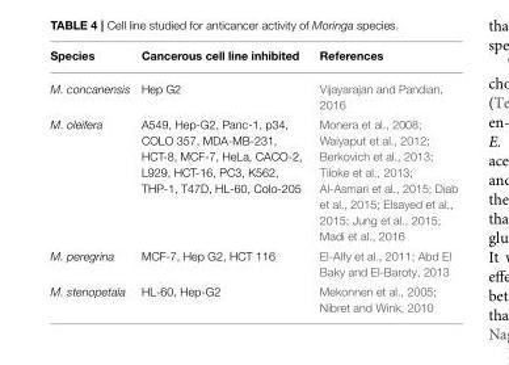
<table><thead><tr><td>Species</td><td>Cancerous cell line inhibited</td><td>References</td></tr></thead><tbody><tr><td>M. concanensis</td><td>Hep G2</td><td>Vijayarajan and Pandian, 2016</td></tr><tr><td>M. oleifera</td><td>A549, Hep-G2, Panc-1, p34, COLO 357, MDA-MB-231, HCT-8, MCF-7, HeLa, CACO-2, L929, HCT-16, PC3, K562, THP-1, T47D, HL-60, Colo-205</td><td>Monera et al., 2008; Waiyaput et al., 2012; Berkovich et al., 2013; Tiloke et al., 2013; Al-Asmari et al., 2015; Diab et al., 2015; Elsayed et al., 2015; Jung et al., 2015; Madi et al., 2016</td></tr><tr><td>M. peregrina</td><td>MCF-7, Hep G2, HCT 116</td><td>El-Alfy et al., 2011; Abd El Baky and El-Baroty, 2013</td></tr><tr><td>M. stenopetala</td><td>HL-60, Hep-G2</td><td>Mekonnen et al., 2005; Nibret and Wink, 2010</td></tr></tbody></table>